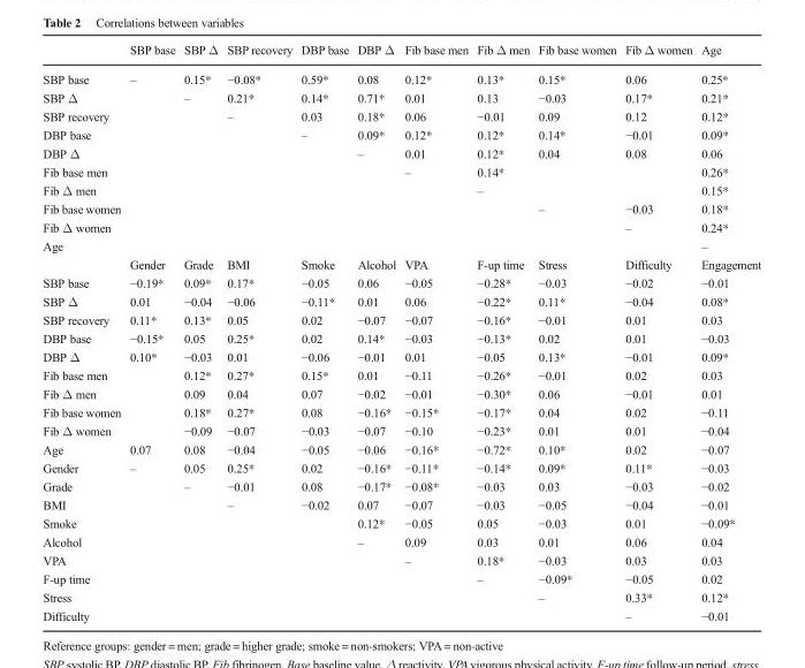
<table><thead><tr><td></td><td>SBP base</td><td>SBP Δ</td><td>SBP recovery</td><td>DBP base</td><td>DBP Δ</td><td>Fib base men</td><td>Fib Δ men</td><td>Fib base women</td><td>Fib Δ women</td><td>Age</td></tr></thead><tbody><tr><td>SBP base</td><td>–</td><td>0.15*</td><td>−0.08*</td><td>0.59*</td><td>0.08</td><td>0.12*</td><td>0.13*</td><td>0.15*</td><td>0.06</td><td>0.25*</td></tr><tr><td>SBP Δ</td><td></td><td>–</td><td>0.21*</td><td>0.14*</td><td>0.71*</td><td>0.01</td><td>0.13</td><td>−0.03</td><td>0.17*</td><td>0.21*</td></tr><tr><td>SBP recovery</td><td></td><td></td><td>–</td><td>0.03</td><td>0.18*</td><td>0.06</td><td>−0.01</td><td>0.09</td><td>0.12</td><td>0.12*</td></tr><tr><td>DBP base</td><td></td><td></td><td></td><td>–</td><td>0.09*</td><td>0.12*</td><td>0.12*</td><td>0.14*</td><td>−0.01</td><td>0.09*</td></tr><tr><td>DBP Δ</td><td></td><td></td><td></td><td></td><td>–</td><td>0.01</td><td>0.12*</td><td>0.04</td><td>0.08</td><td>0.06</td></tr><tr><td>Fib base men</td><td></td><td></td><td></td><td></td><td></td><td>–</td><td>0.14*</td><td></td><td></td><td>0.26*</td></tr><tr><td>Fib Δ men</td><td></td><td></td><td></td><td></td><td></td><td></td><td>–</td><td></td><td></td><td>0.15*</td></tr><tr><td>Fib base women</td><td></td><td></td><td></td><td></td><td></td><td></td><td></td><td>–</td><td>−0.03</td><td>0.18*</td></tr><tr><td>Fib Δ women</td><td></td><td></td><td></td><td></td><td></td><td></td><td></td><td></td><td>–</td><td>0.24*</td></tr><tr><td rowspan="2">Age</td><td></td><td></td><td></td><td></td><td></td><td></td><td></td><td></td><td></td><td>–</td></tr><tr><td>Gender</td><td>Grade</td><td>BMI</td><td>Smoke</td><td>Alcohol</td><td>VPA</td><td>F-up time</td><td>Stress</td><td>Difficulty</td><td>Engagement</td></tr><tr><td>SBP base</td><td>−0.19*</td><td>0.09*</td><td>0.17*</td><td>−0.05</td><td>0.06</td><td>−0.05</td><td>−0.28*</td><td>−0.03</td><td>−0.02</td><td>−0.01</td></tr><tr><td>SBP Δ</td><td>0.01</td><td>−0.04</td><td>−0.06</td><td>−0.11*</td><td>0.01</td><td>0.06</td><td>−0.22*</td><td>0.11*</td><td>−0.04</td><td>0.08*</td></tr><tr><td>SBP recovery</td><td>0.11*</td><td>0.13*</td><td>0.05</td><td>0.02</td><td>−0.07</td><td>−0.07</td><td>−0.16*</td><td>−0.01</td><td>0.01</td><td>0.03</td></tr><tr><td>DBP base</td><td>−0.15*</td><td>0.05</td><td>0.25*</td><td>0.02</td><td>0.14*</td><td>−0.03</td><td>−0.13*</td><td>0.02</td><td>0.01</td><td>−0.03</td></tr><tr><td>DBP Δ</td><td>0.10*</td><td>−0.03</td><td>0.01</td><td>−0.06</td><td>−0.01</td><td>0.01</td><td>−0.05</td><td>0.13*</td><td>−0.01</td><td>0.09*</td></tr><tr><td>Fib base men</td><td></td><td>0.12*</td><td>0.27*</td><td>0.15*</td><td>0.01</td><td>−0.11</td><td>−0.26*</td><td>−0.01</td><td>0.02</td><td>0.03</td></tr><tr><td>Fib Δ men</td><td></td><td>0.09</td><td>0.04</td><td>0.07</td><td>−0.02</td><td>−0.01</td><td>−0.30*</td><td>0.06</td><td>−0.01</td><td>0.01</td></tr><tr><td>Fib base women</td><td></td><td>0.18*</td><td>0.27*</td><td>0.08</td><td>−0.16*</td><td>−0.15*</td><td>−0.17*</td><td>0.04</td><td>0.02</td><td>−0.11</td></tr><tr><td>Fib Δ women</td><td></td><td>−0.09</td><td>−0.07</td><td>−0.03</td><td>−0.07</td><td>−0.10</td><td>−0.23*</td><td>0.01</td><td>0.01</td><td>−0.04</td></tr><tr><td>Age</td><td>0.07</td><td>0.08</td><td>−0.04</td><td>−0.05</td><td>−0.06</td><td>−0.16*</td><td>−0.72*</td><td>0.10*</td><td>0.02</td><td>−0.07</td></tr><tr><td>Gender</td><td>–</td><td>0.05</td><td>0.25*</td><td>0.02</td><td>−0.16*</td><td>−0.11*</td><td>−0.14*</td><td>0.09*</td><td>0.11*</td><td>−0.03</td></tr><tr><td>Grade</td><td></td><td>–</td><td>−0.01</td><td>0.08</td><td>−0.17*</td><td>−0.08*</td><td>−0.03</td><td>0.03</td><td>−0.03</td><td>−0.02</td></tr><tr><td>BMI</td><td></td><td></td><td>–</td><td>−0.02</td><td>0.07</td><td>−0.07</td><td>−0.03</td><td>−0.05</td><td>−0.04</td><td>−0.01</td></tr><tr><td>Smoke</td><td></td><td></td><td></td><td></td><td>0.12*</td><td>−0.05</td><td>0.05</td><td>−0.03</td><td>0.01</td><td>−0.09*</td></tr><tr><td>Alcohol</td><td></td><td></td><td></td><td></td><td>–</td><td>0.09</td><td>0.03</td><td>0.01</td><td>0.06</td><td>0.04</td></tr><tr><td>VPA</td><td></td><td></td><td></td><td></td><td></td><td>–</td><td>0.18*</td><td>−0.03</td><td>0.03</td><td>0.03</td></tr><tr><td>F-up time</td><td></td><td></td><td></td><td></td><td></td><td></td><td>–</td><td>−0.09*</td><td>−0.05</td><td>0.02</td></tr><tr><td>Stress</td><td></td><td></td><td></td><td></td><td></td><td></td><td></td><td>–</td><td>0.33*</td><td>0.12*</td></tr><tr><td>Difficulty</td><td></td><td></td><td></td><td></td><td></td><td></td><td></td><td></td><td>–</td><td>−0.01</td></tr></tbody></table>